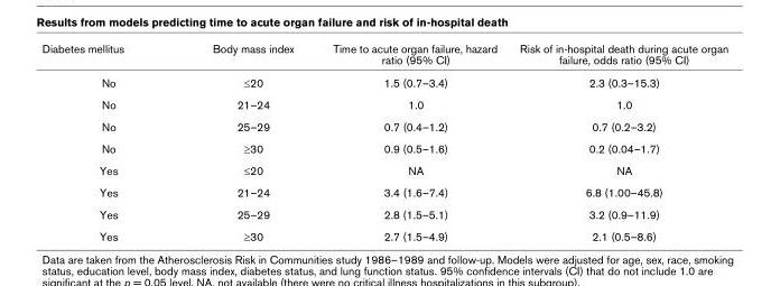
<table><thead><tr><td>Diabetes mellitus</td><td>Body mass index</td><td>Time to acute organ failure, hazard ratio (95% CI)</td><td>Risk of in-hospital death during acute organ failure, odds ratio (95% CI)</td></tr></thead><tbody><tr><td>No</td><td>≤20</td><td>1.5 (0.7–3.4)</td><td>2.3 (0.3–15.3)</td></tr><tr><td>No</td><td>21–24</td><td>1.0</td><td>1.0</td></tr><tr><td>No</td><td>25–29</td><td>0.7 (0.4–1.2)</td><td>0.7 (0.2–3.2)</td></tr><tr><td>No</td><td>≥30</td><td>0.9 (0.5–1.6)</td><td>0.2 (0.04–1.7)</td></tr><tr><td>Yes</td><td>≤20</td><td>NA</td><td>NA</td></tr><tr><td>Yes</td><td>21–24</td><td>3.4 (1.6–7.4)</td><td>6.8 (1.00–45.8)</td></tr><tr><td>Yes</td><td>25–29</td><td>2.8 (1.5–5.1)</td><td>3.2 (0.9–11.9)</td></tr><tr><td>Yes</td><td>≥30</td><td>2.7 (1.5–4.9)</td><td>2.1 (0.5–8.6)</td></tr></tbody></table>